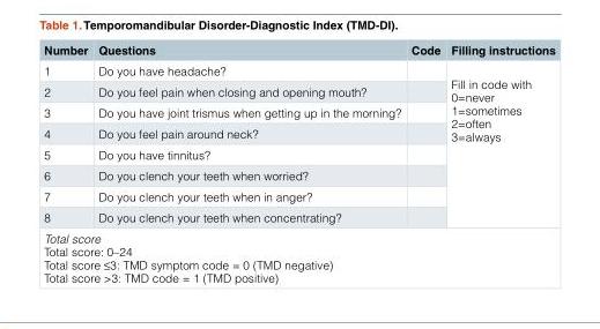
<table><thead><tr><td>Number</td><td>Questions</td><td>Code</td><td>Filling instructions</td></tr></thead><tbody><tr><td>1</td><td>Do you have headache?</td><td></td><td rowspan="8">Fill in code with 0=never 1=sometimes 2=often 3=always</td></tr><tr><td>2</td><td>Do you feel pain when closing and opening mouth?</td><td></td></tr><tr><td>3</td><td>Do you have joint trismus when getting up in the morning?</td><td></td></tr><tr><td>4</td><td>Do you feel pain around neck?</td><td></td></tr><tr><td>5</td><td>Do you have tinnitus?</td><td></td></tr><tr><td>6</td><td>Do you clench your teeth when worried?</td><td></td></tr><tr><td>7</td><td>Do you clench your teeth when in anger?</td><td></td></tr><tr><td>8</td><td>Do you clench your teeth when concentrating?</td><td></td></tr><tr><td colspan="4">Total score Total score: 0–24 Total score ≤3: TMD symptom code = 0 (TMD negative) Total score &gt;3: TMD code = 1 (TMD positive)</td></tr></tbody></table>